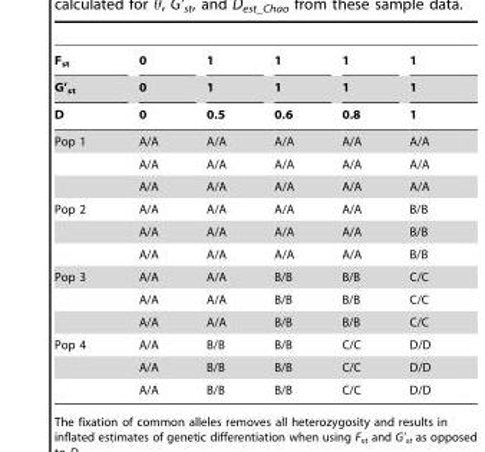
<table><thead><tr><td rowspan="3">F<sub>st</sub> G’<sub>st</sub> D</td><td rowspan="3">0 0 0</td><td rowspan="3">1 1 0.5</td><td rowspan="3">1 1 0.6</td><td rowspan="3">1 1 0.8</td><td rowspan="3">1 1 1</td></tr><tr></tr><tr></tr></thead><tbody><tr><td rowspan="3">Pop 1</td><td>A/A</td><td>A/A</td><td>A/A</td><td>A/A</td><td>A/A</td></tr><tr><td>A/A</td><td>A/A</td><td>A/A</td><td>A/A</td><td>A/A</td></tr><tr><td>A/A</td><td>A/A</td><td>A/A</td><td>A/A</td><td>A/A</td></tr><tr><td rowspan="3">Pop 2</td><td>A/A</td><td>A/A</td><td>A/A</td><td>A/A</td><td>B/B</td></tr><tr><td>A/A</td><td>A/A</td><td>A/A</td><td>A/A</td><td>B/B</td></tr><tr><td>A/A</td><td>A/A</td><td>A/A</td><td>A/A</td><td>B/B</td></tr><tr><td rowspan="3">Pop 3</td><td>A/A</td><td>A/A</td><td>B/B</td><td>B/B</td><td>C/C</td></tr><tr><td>A/A</td><td>A/A</td><td>B/B</td><td>B/B</td><td>C/C</td></tr><tr><td>A/A</td><td>A/A</td><td>B/B</td><td>B/B</td><td>C/C</td></tr><tr><td rowspan="3">Pop 4</td><td>A/A</td><td>B/B</td><td>B/B</td><td>C/C</td><td>D/D</td></tr><tr><td>A/A</td><td>B/B</td><td>B/B</td><td>C/C</td><td>D/D</td></tr><tr><td>A/A</td><td>B/B</td><td>B/B</td><td>C/C</td><td>D/D</td></tr></tbody></table>